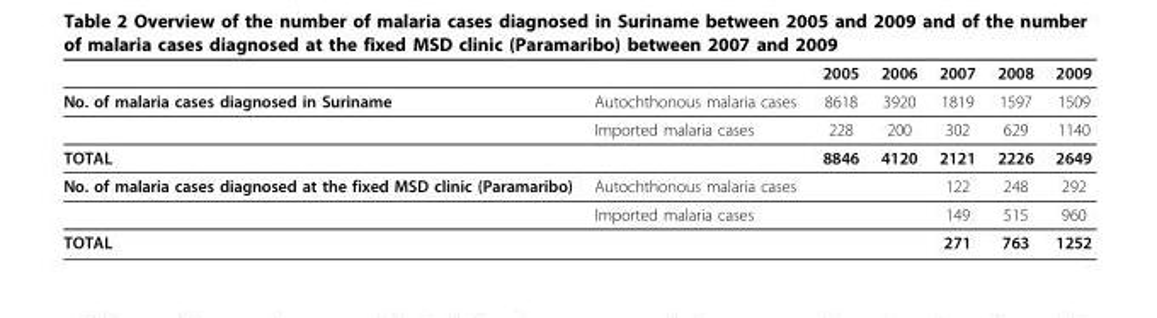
<table><thead><tr><td></td><td></td><td>2005</td><td>2006</td><td>2007</td><td>2008</td><td>2009</td></tr></thead><tbody><tr><td rowspan="2">No. of malaria cases diagnosed in Suriname</td><td>Autochthonous malaria cases</td><td>8618</td><td>3920</td><td>1819</td><td>1597</td><td>1509</td></tr><tr><td>Imported malaria cases</td><td>228</td><td>200</td><td>302</td><td>629</td><td>1140</td></tr><tr><td>TOTAL</td><td></td><td>8846</td><td>4120</td><td>2121</td><td>2226</td><td>2649</td></tr><tr><td rowspan="2">No. of malaria cases diagnosed at the fixed MSD clinic (Paramaribo)</td><td>Autochthonous malaria cases</td><td></td><td></td><td>122</td><td>248</td><td>292</td></tr><tr><td>Imported malaria cases</td><td></td><td></td><td>149</td><td>515</td><td>960</td></tr><tr><td>TOTAL</td><td></td><td></td><td></td><td>271</td><td>763</td><td>1252</td></tr></tbody></table>